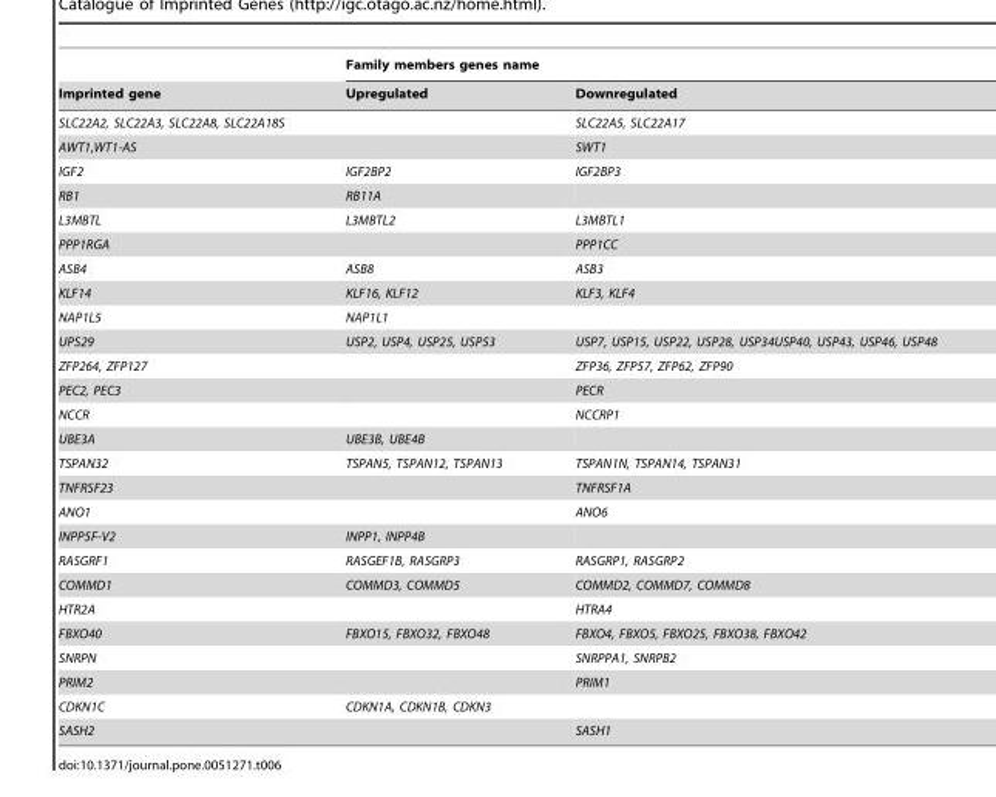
<table><thead><tr><td rowspan="2">Imprinted gene</td><td colspan="2">Family members genes name</td></tr><tr><td>Upregulated</td><td>Downregulated</td></tr></thead><tbody><tr><td>SLC22A2, SLC22A3, SLC22A8, SLC22A18S</td><td></td><td>SLC22A5, SLC22A17</td></tr><tr><td>AWT1,WT1-AS</td><td></td><td>SWT1</td></tr><tr><td>IGF2</td><td>IGF2BP2</td><td>IGF2BP3</td></tr><tr><td>RB1</td><td>RB11A</td><td></td></tr><tr><td>L3MBTL</td><td>L3MBTL2</td><td>L3MBTL1</td></tr><tr><td>PPP1RGA</td><td></td><td>PPP1CC</td></tr><tr><td>ASB4</td><td>ASB8</td><td>ASB3</td></tr><tr><td>KLF14</td><td>KLF16, KLF12</td><td>KLF3, KLF4</td></tr><tr><td>NAP1L5</td><td>NAP1L1</td><td></td></tr><tr><td>UPS29</td><td>USP2, USP4, USP25, USP53</td><td>USP7, USP15, USP22, USP28, USP34USP40, USP43, USP46, USP48</td></tr><tr><td>ZFP264, ZFP127</td><td></td><td>ZFP36, ZFP57, ZFP62, ZFP90</td></tr><tr><td>PEC2, PEC3</td><td></td><td>PECR</td></tr><tr><td>NCCR</td><td></td><td>NCCRP1</td></tr><tr><td>UBE3A</td><td>UBE3B, UBE4B</td><td></td></tr><tr><td>TSPAN32</td><td>TSPAN5, TSPAN12, TSPAN13</td><td>TSPAN1N, TSPAN14, TSPAN31</td></tr><tr><td>TNFRSF23</td><td></td><td>TNFRSF1A</td></tr><tr><td>ANO1</td><td></td><td>ANO6</td></tr><tr><td>INPP5F-V2</td><td>INPP1, INPP4B</td><td></td></tr><tr><td>RASGRF1</td><td>RASGEF1B, RASGRP3</td><td>RASGRP1, RASGRP2</td></tr><tr><td>COMMD1</td><td>COMMD3, COMMD5</td><td>COMMD2, COMMD7, COMMD8</td></tr><tr><td>HTR2A</td><td></td><td>HTRA4</td></tr><tr><td>FBXO40</td><td>FBXO15, FBXO32, FBXO48</td><td>FBXO4, FBXO5, FBXO25, FBXO38, FBXO42</td></tr><tr><td>SNRPN</td><td></td><td>SNRPPA1, SNRPB2</td></tr><tr><td>PRIM2</td><td></td><td>PRIM1</td></tr><tr><td>CDKN1C</td><td>CDKN1A, CDKN1B, CDKN3</td><td></td></tr><tr><td>SASH2</td><td></td><td>SASH1</td></tr></tbody></table>